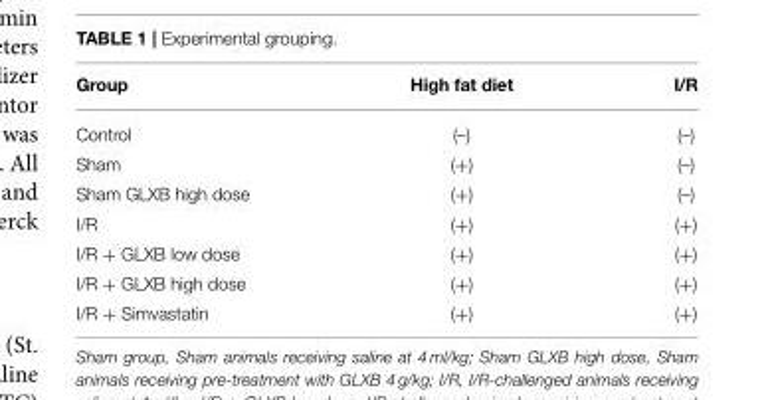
<table><thead><tr><td>Group</td><td>High fat diet</td><td>I/R</td></tr></thead><tbody><tr><td>Control</td><td>(–)</td><td>(–)</td></tr><tr><td>Sham</td><td>(+)</td><td>(–)</td></tr><tr><td>Sham GLXB high dose</td><td>(+)</td><td>(–)</td></tr><tr><td>I/R</td><td>(+)</td><td>(+)</td></tr><tr><td>I/R + GLXB low dose</td><td>(+)</td><td>(+)</td></tr><tr><td>I/R + GLXB high dose</td><td>(+)</td><td>(+)</td></tr><tr><td>I/R + Simvastatin</td><td>(+)</td><td>(+)</td></tr></tbody></table>